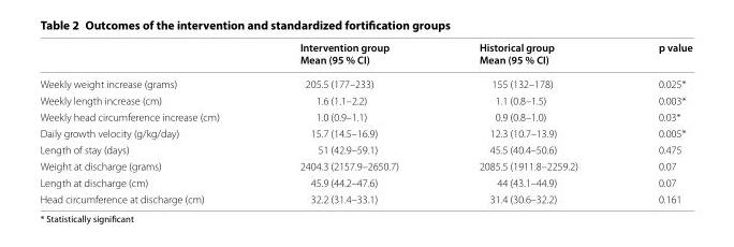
<table><thead><tr><td></td><td>Intervention group Mean (95 % CI)</td><td>Historical group Mean (95 % CI)</td><td>p value</td></tr></thead><tbody><tr><td>Weekly weight increase (grams)</td><td>205.5 (177–233)</td><td>155 (132–178)</td><td>0.025*</td></tr><tr><td>Weekly length increase (cm)</td><td>1.6 (1.1–2.2)</td><td>1.1 (0.8–1.5)</td><td>0.003*</td></tr><tr><td>Weekly head circumference increase (cm)</td><td>1.0 (0.9–1.1)</td><td>0.9 (0.8–1.0)</td><td>0.03*</td></tr><tr><td>Daily growth velocity (g/kg/day)</td><td>15.7 (14.5–16.9)</td><td>12.3 (10.7–13.9)</td><td>0.005*</td></tr><tr><td>Length of stay (days)</td><td>51 (42.9–59.1)</td><td>45.5 (40.4–50.6)</td><td>0.475</td></tr><tr><td>Weight at discharge (grams)</td><td>2404.3 (2157.9–2650.7)</td><td>2085.5 (1911.8–2259.2)</td><td>0.07</td></tr><tr><td>Length at discharge (cm)</td><td>45.9 (44.2–47.6)</td><td>44 (43.1–44.9)</td><td>0.07</td></tr><tr><td>Head circumference at discharge (cm)</td><td>32.2 (31.4–33.1)</td><td>31.4 (30.6–32.2)</td><td>0.161</td></tr></tbody></table>